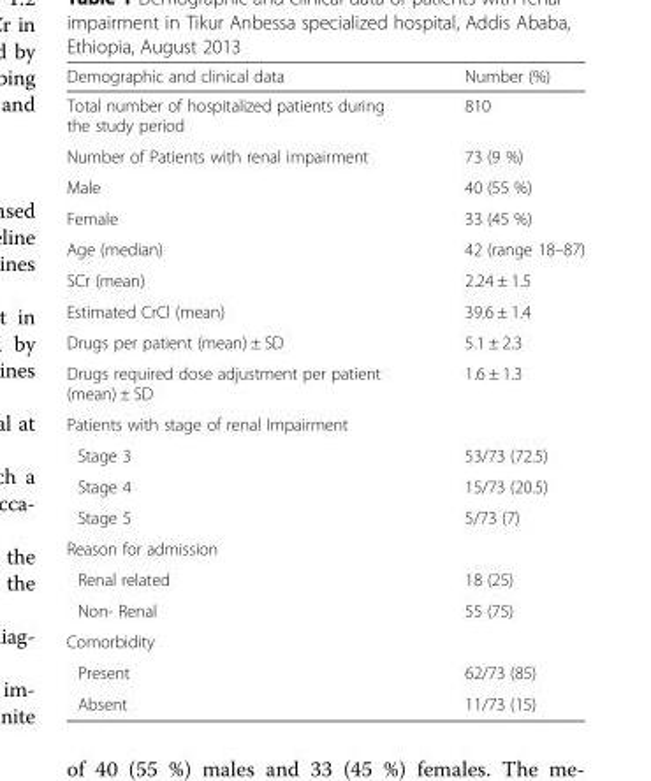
<table><thead><tr><td>Demographic and clinical data</td><td>Number (%)</td></tr></thead><tbody><tr><td>Total number of hospitalized patients during the study period</td><td>810</td></tr><tr><td>Number of Patients with renal impairment</td><td>73 (9 %)</td></tr><tr><td>Male</td><td>40 (55 %)</td></tr><tr><td>Female</td><td>33 (45 %)</td></tr><tr><td>Age (median)</td><td>42 (range 18–87)</td></tr><tr><td>SCr (mean)</td><td>2.24 ± 1.5</td></tr><tr><td>Estimated CrCl (mean)</td><td>39.6 ± 1.4</td></tr><tr><td>Drugs per patient (mean) ± SD</td><td>5.1 ± 2.3</td></tr><tr><td>Drugs required dose adjustment per patient (mean) ± SD</td><td>1.6 ± 1.3</td></tr><tr><td colspan="2">Patients with stage of renal Impairment</td></tr><tr><td>Stage 3</td><td>53/73 (72.5)</td></tr><tr><td>Stage 4</td><td>15/73 (20.5)</td></tr><tr><td>Stage 5</td><td>5/73 (7)</td></tr><tr><td colspan="2">Reason for admission</td></tr><tr><td>Renal related</td><td>18 (25)</td></tr><tr><td>Non- Renal</td><td>55 (75)</td></tr><tr><td colspan="2">Comorbidity</td></tr><tr><td>Present</td><td>62/73 (85)</td></tr><tr><td>Absent</td><td>11/73 (15)</td></tr></tbody></table>